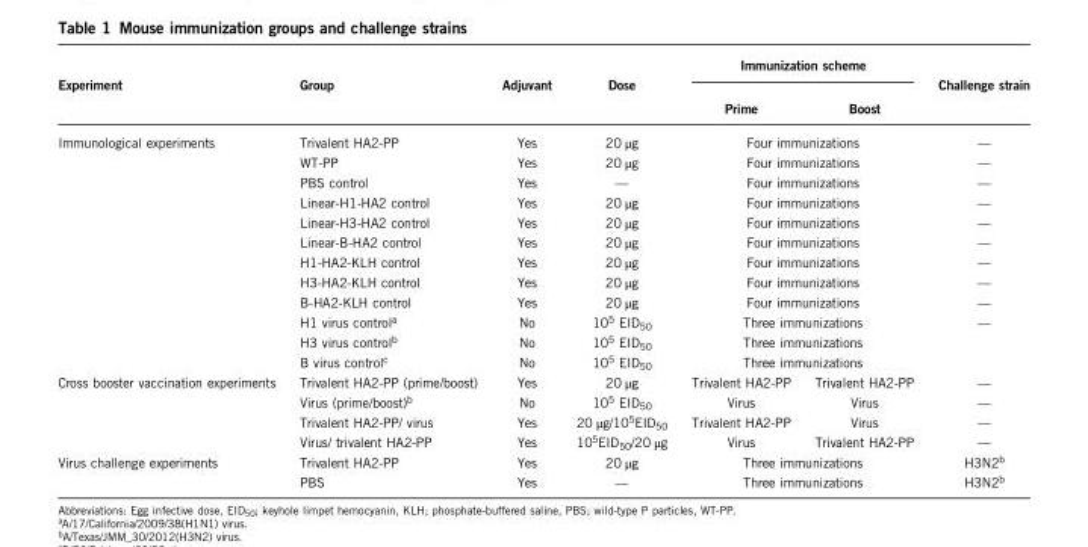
<table><thead><tr><td rowspan="2">Experiment</td><td rowspan="2">Group</td><td rowspan="2">Adjuvant</td><td rowspan="2">Dose</td><td colspan="2">Immunization scheme</td><td rowspan="2">Challenge strain</td></tr><tr><td>Prime</td><td>Boost</td></tr></thead><tbody><tr><td rowspan="12">Immunological experiments</td><td>Trivalent HA2-PP</td><td>Yes</td><td>20 μg</td><td colspan="2">Four immunizations</td><td>—</td></tr><tr><td>WT-PP</td><td>Yes</td><td>20 μg</td><td colspan="2">Four immunizations</td><td>—</td></tr><tr><td>PBS control</td><td>Yes</td><td>—</td><td colspan="2">Four immunizations</td><td>—</td></tr><tr><td>Linear-H1-HA2 control</td><td>Yes</td><td>20 μg</td><td colspan="2">Four immunizations</td><td>—</td></tr><tr><td>Linear-H3-HA2 control</td><td>Yes</td><td>20 μg</td><td colspan="2">Four immunizations</td><td>—</td></tr><tr><td>Linear-B-HA2 control</td><td>Yes</td><td>20 μg</td><td colspan="2">Four immunizations</td><td>—</td></tr><tr><td>H1-HA2-KLH control</td><td>Yes</td><td>20 μg</td><td colspan="2">Four immunizations</td><td>—</td></tr><tr><td>H3-HA2-KLH control</td><td>Yes</td><td>20 μg</td><td colspan="2">Four immunizations</td><td>—</td></tr><tr><td>B-HA2-KLH control</td><td>Yes</td><td>20 μg</td><td colspan="2">Four immunizations</td><td>—</td></tr><tr><td>H1 virus control<sup>a</sup></td><td>No</td><td>10<sup>5</sup> EID<sub>50</sub></td><td colspan="2">Three immunizations</td><td>—</td></tr><tr><td>H3 virus control<sup>b</sup></td><td>No</td><td>10<sup>5</sup> EID<sub>50</sub></td><td colspan="2">Three immunizations</td><td></td></tr><tr><td>B virus control<sup>c</sup></td><td>No</td><td>10<sup>5</sup> EID<sub>50</sub></td><td colspan="2">Three immunizations</td><td></td></tr><tr><td rowspan="4">Cross booster vaccination experiments</td><td>Trivalent HA2-PP (prime/boost)</td><td>Yes</td><td>20 μg</td><td>Trivalent HA2-PP</td><td>Trivalent HA2-PP</td><td>—</td></tr><tr><td>Virus (prime/boost)<sup>b</sup></td><td>No</td><td>10<sup>5</sup> EID<sub>50</sub></td><td>Virus</td><td>Virus</td><td>—</td></tr><tr><td>Trivalent HA2-PP/ virus</td><td>Yes</td><td>20 μg/10<sup>5</sup>EID<sub>50</sub></td><td>Trivalent HA2-PP</td><td>Virus</td><td>—</td></tr><tr><td>Virus/ trivalent HA2-PP</td><td>Yes</td><td>10<sup>5</sup>EID<sub>50</sub>/20 μg</td><td>Virus</td><td>Trivalent HA2-PP</td><td>—</td></tr><tr><td rowspan="2">Virus challenge experiments</td><td>Trivalent HA2-PP</td><td>Yes</td><td>20 μg</td><td colspan="2">Three immunizations</td><td>H3N2<sup>b</sup></td></tr><tr><td>PBS</td><td>Yes</td><td>—</td><td colspan="2">Three immunizations</td><td>H3N2<sup>b</sup></td></tr></tbody></table>